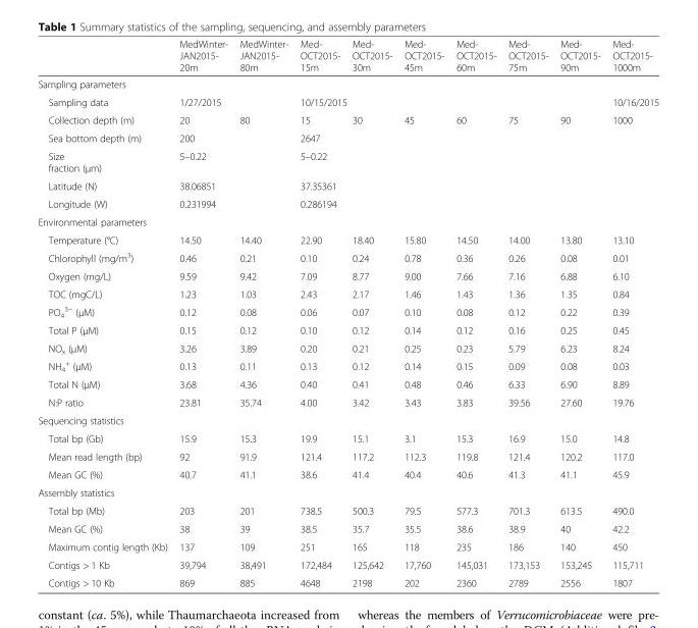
<table><thead><tr><td></td><td>MedWinter- JAN2015- 20m</td><td>MedWinter- JAN2015- 80m</td><td>Med- OCT2015- 15m</td><td>Med- OCT2015- 30m</td><td>Med- OCT2015- 45m</td><td>Med- OCT2015- 60m</td><td>Med- OCT2015- 75m</td><td>Med- OCT2015- 90m</td><td>Med- OCT2015- 1000m</td></tr></thead><tbody><tr><td colspan="10">Sampling parameters</td></tr><tr><td>Sampling data</td><td colspan="2">1/27/2015</td><td colspan="6">10/15/2015</td><td>10/16/2015</td></tr><tr><td>Collection depth (m)</td><td>20</td><td>80</td><td>15</td><td>30</td><td>45</td><td>60</td><td>75</td><td>90</td><td>1000</td></tr><tr><td>Sea bottom depth (m)</td><td colspan="2">200</td><td colspan="7">2647</td></tr><tr><td>Size fraction (μm)</td><td colspan="2">5–0.22</td><td colspan="7">5–0.22</td></tr><tr><td>Latitude (N)</td><td colspan="2">38.06851</td><td colspan="7">37.35361</td></tr><tr><td>Longitude (W)</td><td colspan="2">0.231994</td><td colspan="7">0.286194</td></tr><tr><td colspan="10">Environmental parameters</td></tr><tr><td>Temperature (°C)</td><td>14.50</td><td>14.40</td><td>22.90</td><td>18.40</td><td>15.80</td><td>14.50</td><td>14.00</td><td>13.80</td><td>13.10</td></tr><tr><td>Chlorophyll (mg/m<sup>3</sup>)</td><td>0.46</td><td>0.21</td><td>0.10</td><td>0.24</td><td>0.78</td><td>0.36</td><td>0.26</td><td>0.08</td><td>0.01</td></tr><tr><td>Oxygen (mg/L)</td><td>9.59</td><td>9.42</td><td>7.09</td><td>8.77</td><td>9.00</td><td>7.66</td><td>7.16</td><td>6.88</td><td>6.10</td></tr><tr><td>TOC (mgC/L)</td><td>1.23</td><td>1.03</td><td>2.43</td><td>2.17</td><td>1.46</td><td>1.43</td><td>1.36</td><td>1.35</td><td>0.84</td></tr><tr><td>PO<sub>4</sub> <sup>3−</sup> (μM)</td><td>0.12</td><td>0.08</td><td>0.06</td><td>0.07</td><td>0.10</td><td>0.08</td><td>0.12</td><td>0.22</td><td>0.39</td></tr><tr><td>Total P (μM)</td><td>0.15</td><td>0.12</td><td>0.10</td><td>0.12</td><td>0.14</td><td>0.12</td><td>0.16</td><td>0.25</td><td>0.45</td></tr><tr><td>NO<sub>x</sub> (μM)</td><td>3.26</td><td>3.89</td><td>0.20</td><td>0.21</td><td>0.25</td><td>0.23</td><td>5.79</td><td>6.23</td><td>8.24</td></tr><tr><td>NH<sub>4</sub> <sup>+</sup> (μM)</td><td>0.13</td><td>0.11</td><td>0.13</td><td>0.12</td><td>0.14</td><td>0.15</td><td>0.09</td><td>0.08</td><td>0.03</td></tr><tr><td>Total N (μM)</td><td>3.68</td><td>4.36</td><td>0.40</td><td>0.41</td><td>0.48</td><td>0.46</td><td>6.33</td><td>6.90</td><td>8.89</td></tr><tr><td>N:P ratio</td><td>23.81</td><td>35.74</td><td>4.00</td><td>3.42</td><td>3.43</td><td>3.83</td><td>39.56</td><td>27.60</td><td>19.76</td></tr><tr><td colspan="10">Sequencing statistics</td></tr><tr><td>Total bp (Gb)</td><td>15.9</td><td>15.3</td><td>19.9</td><td>15.1</td><td>3.1</td><td>15.3</td><td>16.9</td><td>15.0</td><td>14.8</td></tr><tr><td>Mean read length (bp)</td><td>92</td><td>91.9</td><td>121.4</td><td>117.2</td><td>112.3</td><td>119.8</td><td>121.4</td><td>120.2</td><td>117.0</td></tr><tr><td>Mean GC (%)</td><td>40.7</td><td>41.1</td><td>38.6</td><td>41.4</td><td>40.4</td><td>40.6</td><td>41.3</td><td>41.1</td><td>45.9</td></tr><tr><td colspan="10">Assembly statistics</td></tr><tr><td>Total bp (Mb)</td><td>203</td><td>201</td><td>738.5</td><td>500.3</td><td>79.5</td><td>577.3</td><td>701.3</td><td>613.5</td><td>490.0</td></tr><tr><td>Mean GC (%)</td><td>38</td><td>39</td><td>38.5</td><td>35.7</td><td>35.5</td><td>38.6</td><td>38.9</td><td>40</td><td>42.2</td></tr><tr><td>Maximum contig length (Kb)</td><td>137</td><td>109</td><td>251</td><td>165</td><td>118</td><td>235</td><td>186</td><td>140</td><td>450</td></tr><tr><td>Contigs &gt; 1 Kb</td><td>39,794</td><td>38,491</td><td>172,484</td><td>125,642</td><td>17,760</td><td>145,031</td><td>173,153</td><td>153,245</td><td>115,711</td></tr><tr><td>Contigs &gt; 10 Kb</td><td>869</td><td>885</td><td>4648</td><td>2198</td><td>202</td><td>2360</td><td>2789</td><td>2556</td><td>1807</td></tr></tbody></table>